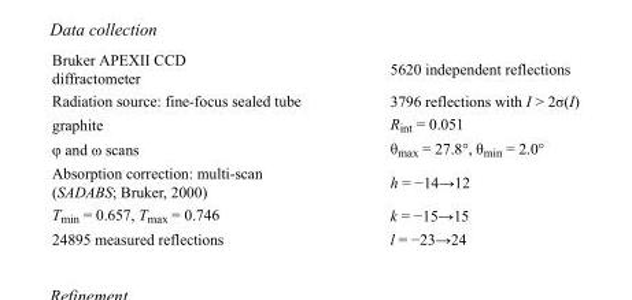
<table><tbody><tr><td>Bruker APEXII CCD diffractometer</td><td>5620 independent reflections</td></tr><tr><td>Radiation source: fine-focus sealed tube</td><td>3796 reflections with I &gt; 2σ(I)</td></tr><tr><td>graphite</td><td>R<sub>int</sub> = 0.051</td></tr><tr><td>φ and ω scans</td><td>θ<sub>max</sub> = 27.8°, θ<sub>min</sub> = 2.0°</td></tr><tr><td>Absorption correction: multi-scan (SADABS; Bruker, 2000)</td><td>h = −14→12</td></tr><tr><td>T<sub>min</sub> = 0.657, T<sub>max</sub> = 0.746</td><td>k = −15→15</td></tr><tr><td>24895 measured reflections</td><td>l = −23→24</td></tr></tbody></table>